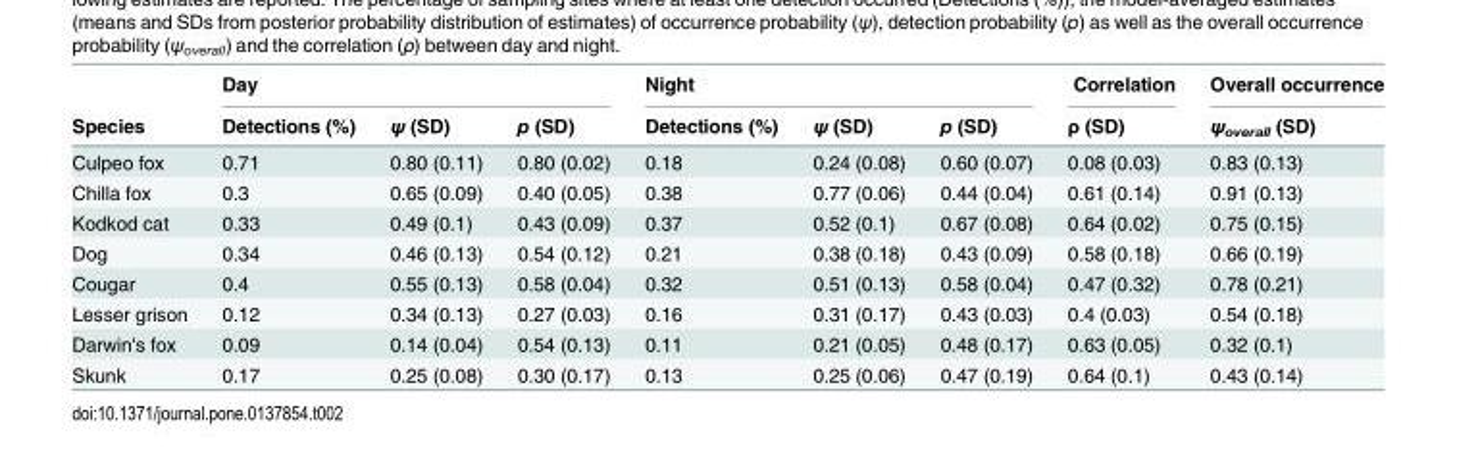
<table><thead><tr><td rowspan="2">Species</td><td colspan="3">Day</td><td colspan="3">Night</td><td rowspan="2">Correlation ρ (SD)</td><td rowspan="2">Overall occurrence ψ<sub>overall</sub> (SD)</td></tr><tr><td>Detections (%)</td><td>ψ (SD)</td><td>p (SD)</td><td>Detections (%)</td><td>ψ (SD)</td><td>p (SD)</td></tr></thead><tbody><tr><td>Culpeo fox</td><td>0.71</td><td>0.80 (0.11)</td><td>0.80 (0.02)</td><td>0.18</td><td>0.24 (0.08)</td><td>0.60 (0.07)</td><td>0.08 (0.03)</td><td>0.83 (0.13)</td></tr><tr><td>Chilla fox</td><td>0.3</td><td>0.65 (0.09)</td><td>0.40 (0.05)</td><td>0.38</td><td>0.77 (0.06)</td><td>0.44 (0.04)</td><td>0.61 (0.14)</td><td>0.91 (0.13)</td></tr><tr><td>Kodkod cat</td><td>0.33</td><td>0.49 (0.1)</td><td>0.43 (0.09)</td><td>0.37</td><td>0.52 (0.1)</td><td>0.67 (0.08)</td><td>0.64 (0.02)</td><td>0.75 (0.15)</td></tr><tr><td>Dog</td><td>0.34</td><td>0.46 (0.13)</td><td>0.54 (0.12)</td><td>0.21</td><td>0.38 (0.18)</td><td>0.43 (0.09)</td><td>0.58 (0.18)</td><td>0.66 (0.19)</td></tr><tr><td>Cougar</td><td>0.4</td><td>0.55 (0.13)</td><td>0.58 (0.04)</td><td>0.32</td><td>0.51 (0.13)</td><td>0.58 (0.04)</td><td>0.47 (0.32)</td><td>0.78 (0.21)</td></tr><tr><td>Lesser grison</td><td>0.12</td><td>0.34 (0.13)</td><td>0.27 (0.03)</td><td>0.16</td><td>0.31 (0.17)</td><td>0.43 (0.03)</td><td>0.4 (0.03)</td><td>0.54 (0.18)</td></tr><tr><td>Darwin&#x27;s fox</td><td>0.09</td><td>0.14 (0.04)</td><td>0.54 (0.13)</td><td>0.11</td><td>0.21 (0.05)</td><td>0.48 (0.17)</td><td>0.63 (0.05)</td><td>0.32 (0.1)</td></tr><tr><td>Skunk</td><td>0.17</td><td>0.25 (0.08)</td><td>0.30 (0.17)</td><td>0.13</td><td>0.25 (0.06)</td><td>0.47 (0.19)</td><td>0.64 (0.1)</td><td>0.43 (0.14)</td></tr></tbody></table>